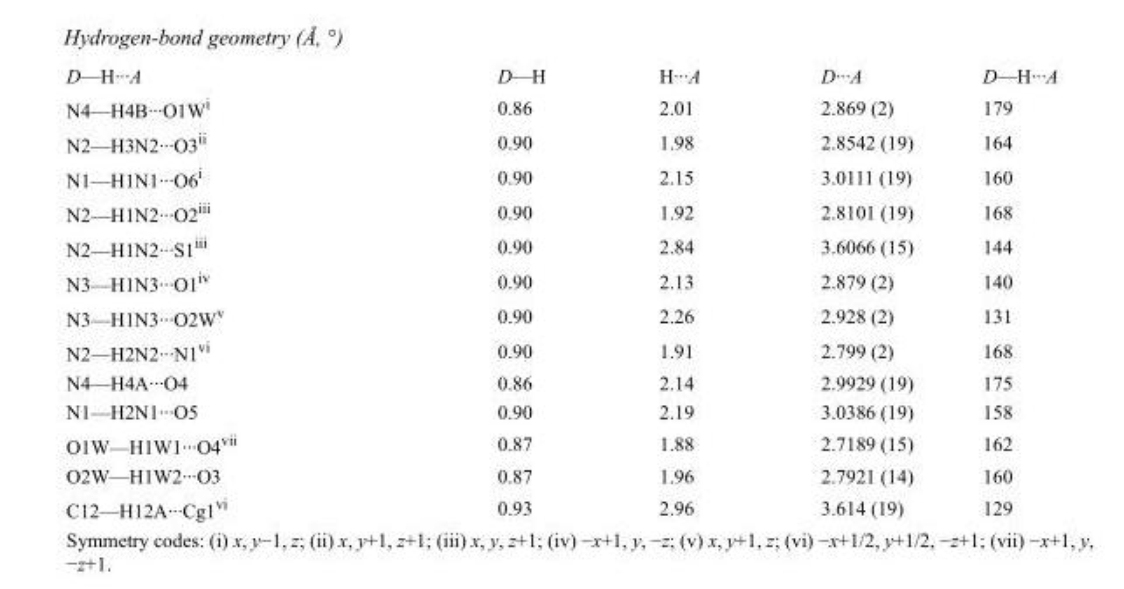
<table><tbody><tr><td>D—H···A</td><td>D—H</td><td>H···A</td><td>D···A</td><td>D—H···A</td></tr><tr><td>N4—H4B···O1W<sup>i</sup></td><td>0.86</td><td>2.01</td><td>2.869 (2)</td><td>179</td></tr><tr><td>N2—H3N2···O3<sup>ii</sup></td><td>0.90</td><td>1.98</td><td>2.8542 (19)</td><td>164</td></tr><tr><td>N1—H1N1···O6<sup>i</sup></td><td>0.90</td><td>2.15</td><td>3.0111 (19)</td><td>160</td></tr><tr><td>N2—H1N2···O2<sup>iii</sup></td><td>0.90</td><td>1.92</td><td>2.8101 (19)</td><td>168</td></tr><tr><td>N2—H1N2···S1<sup>iii</sup></td><td>0.90</td><td>2.84</td><td>3.6066 (15)</td><td>144</td></tr><tr><td>N3—H1N3···O1<sup>iv</sup></td><td>0.90</td><td>2.13</td><td>2.879 (2)</td><td>140</td></tr><tr><td>N3—H1N3···O2W<sup>v</sup></td><td>0.90</td><td>2.26</td><td>2.928 (2)</td><td>131</td></tr><tr><td>N2—H2N2···N1<sup>vi</sup></td><td>0.90</td><td>1.91</td><td>2.799 (2)</td><td>168</td></tr><tr><td>N4—H4A···O4</td><td>0.86</td><td>2.14</td><td>2.9929 (19)</td><td>175</td></tr><tr><td>N1—H2N1···O5</td><td>0.90</td><td>2.19</td><td>3.0386 (19)</td><td>158</td></tr><tr><td>O1W—H1W1···O4<sup>vii</sup></td><td>0.87</td><td>1.88</td><td>2.7189 (15)</td><td>162</td></tr><tr><td>O2W—H1W2···O3</td><td>0.87</td><td>1.96</td><td>2.7921 (14)</td><td>160</td></tr><tr><td>C12—H12A···Cg1<sup>vi</sup></td><td>0.93</td><td>2.96</td><td>3.614 (19)</td><td>129</td></tr></tbody></table>